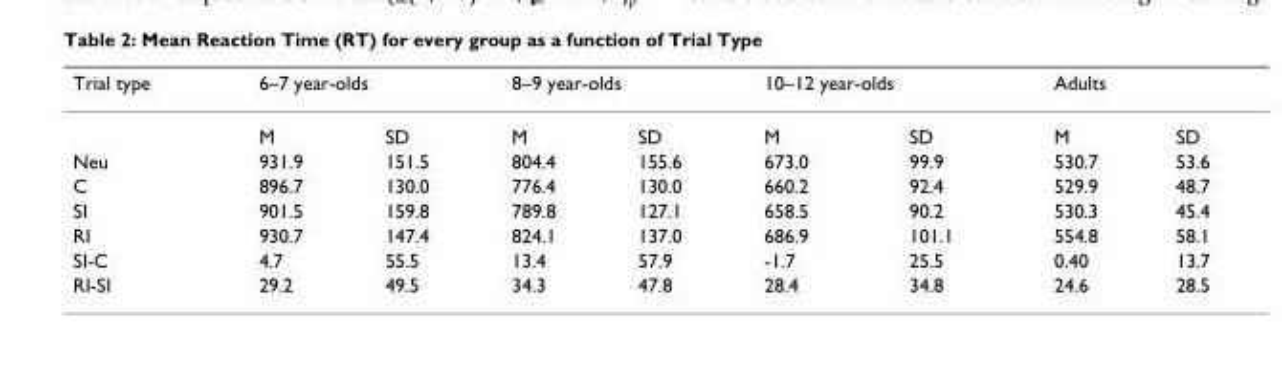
<table><thead><tr><td rowspan="2">Trial type</td><td colspan="2">6–7 year-olds</td><td colspan="2">8–9 year-olds</td><td colspan="2">10–12 year-olds</td><td colspan="2">Adults</td></tr><tr><td>M</td><td>SD</td><td>M</td><td>SD</td><td>M</td><td>SD</td><td>M</td><td>SD</td></tr></thead><tbody><tr><td>Neu</td><td>931.9</td><td>151.5</td><td>804.4</td><td>155.6</td><td>673.0</td><td>99.9</td><td>530.7</td><td>53.6</td></tr><tr><td>C</td><td>896.7</td><td>130.0</td><td>776.4</td><td>130.0</td><td>660.2</td><td>92.4</td><td>529.9</td><td>48.7</td></tr><tr><td>SI</td><td>901.5</td><td>159.8</td><td>789.8</td><td>127.1</td><td>658.5</td><td>90.2</td><td>530.3</td><td>45.4</td></tr><tr><td>RI</td><td>930.7</td><td>147.4</td><td>824.1</td><td>137.0</td><td>686.9</td><td>101.1</td><td>554.8</td><td>58.1</td></tr><tr><td>SI-C</td><td>4.7</td><td>55.5</td><td>13.4</td><td>57.9</td><td>-1.7</td><td>25.5</td><td>0.40</td><td>13.7</td></tr><tr><td>RI-SI</td><td>29.2</td><td>49.5</td><td>34.3</td><td>47.8</td><td>28.4</td><td>34.8</td><td>24.6</td><td>28.5</td></tr></tbody></table>